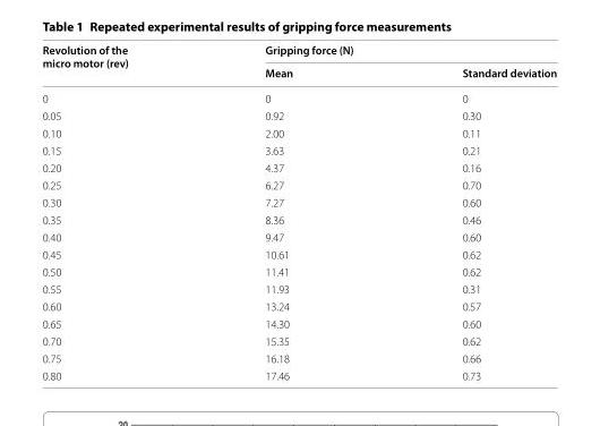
<table><thead><tr><td rowspan="2">Revolution of the micro motor (rev)</td><td colspan="2">Gripping force (N)</td></tr><tr><td>Mean</td><td>Standard deviation</td></tr></thead><tbody><tr><td>0</td><td>0</td><td>0</td></tr><tr><td>0.05</td><td>0.92</td><td>0.30</td></tr><tr><td>0.10</td><td>2.00</td><td>0.11</td></tr><tr><td>0.15</td><td>3.63</td><td>0.21</td></tr><tr><td>0.20</td><td>4.37</td><td>0.16</td></tr><tr><td>0.25</td><td>6.27</td><td>0.70</td></tr><tr><td>0.30</td><td>7.27</td><td>0.60</td></tr><tr><td>0.35</td><td>8.36</td><td>0.46</td></tr><tr><td>0.40</td><td>9.47</td><td>0.60</td></tr><tr><td>0.45</td><td>10.61</td><td>0.62</td></tr><tr><td>0.50</td><td>11.41</td><td>0.62</td></tr><tr><td>0.55</td><td>11.93</td><td>0.31</td></tr><tr><td>0.60</td><td>13.24</td><td>0.57</td></tr><tr><td>0.65</td><td>14.30</td><td>0.60</td></tr><tr><td>0.70</td><td>15.35</td><td>0.62</td></tr><tr><td>0.75</td><td>16.18</td><td>0.66</td></tr><tr><td>0.80</td><td>17.46</td><td>0.73</td></tr></tbody></table>